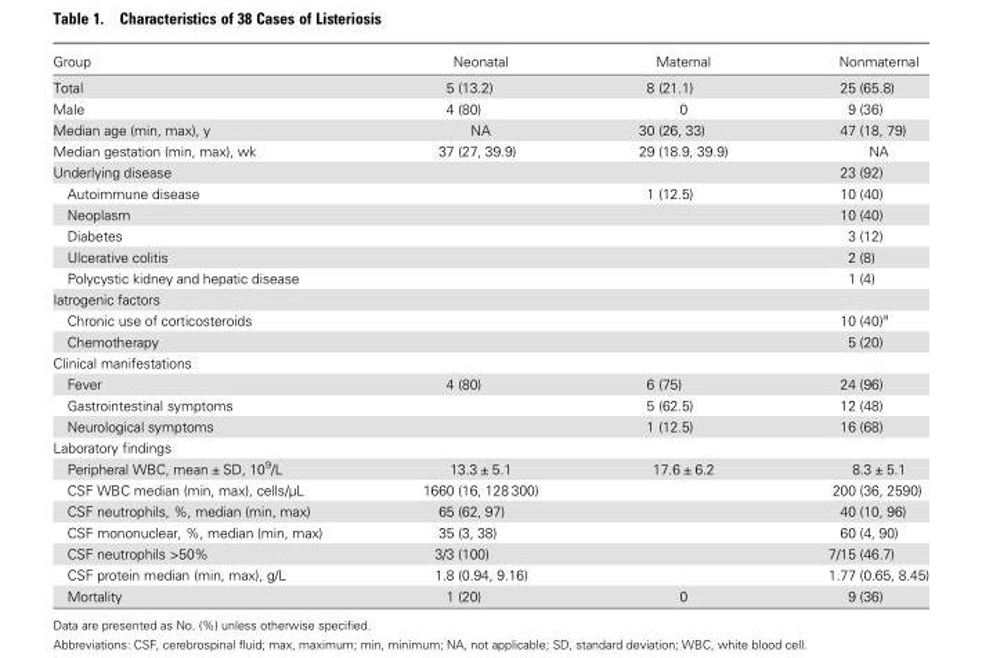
<table><thead><tr><td>Group</td><td>Neonatal</td><td>Maternal</td><td>Nonmaternal</td></tr></thead><tbody><tr><td>Total</td><td>5 (13.2)</td><td>8 (21.1)</td><td>25 (65.8)</td></tr><tr><td>Male</td><td>4 (80)</td><td>0</td><td>9 (36)</td></tr><tr><td>Median age (min, max), y</td><td>NA</td><td>30 (26, 33)</td><td>47 (18, 79)</td></tr><tr><td>Median gestation (min, max), wk</td><td>37 (27, 39.9)</td><td>29 (18.9, 39.9)</td><td>NA</td></tr><tr><td>Underlying disease</td><td></td><td></td><td>23 (92)</td></tr><tr><td>Autoimmune disease</td><td></td><td>1 (12.5)</td><td>10 (40)</td></tr><tr><td>Neoplasm</td><td></td><td></td><td>10 (40)</td></tr><tr><td>Diabetes</td><td></td><td></td><td>3 (12)</td></tr><tr><td>Ulcerative colitis</td><td></td><td></td><td>2 (8)</td></tr><tr><td>Polycystic kidney and hepatic disease</td><td></td><td></td><td>1 (4)</td></tr><tr><td colspan="4">Iatrogenic factors</td></tr><tr><td>Chronic use of corticosteroids</td><td></td><td></td><td>10 (40)<sup>a</sup></td></tr><tr><td>Chemotherapy</td><td></td><td></td><td>5 (20)</td></tr><tr><td colspan="4">Clinical manifestations</td></tr><tr><td>Fever</td><td>4 (80)</td><td>6 (75)</td><td>24 (96)</td></tr><tr><td>Gastrointestinal symptoms</td><td></td><td>5 (62.5)</td><td>12 (48)</td></tr><tr><td>Neurological symptoms</td><td></td><td>1 (12.5)</td><td>16 (68)</td></tr><tr><td colspan="4">Laboratory findings</td></tr><tr><td>Peripheral WBC, mean ± SD, 10<sup>9</sup>/L</td><td>13.3 ± 5.1</td><td>17.6 ± 6.2</td><td>8.3 ± 5.1</td></tr><tr><td>CSF WBC median (min, max), cells/µL</td><td>1660 (16, 128 300)</td><td></td><td>200 (36, 2590)</td></tr><tr><td>CSF neutrophils, %, median (min, max)</td><td>65 (62, 97)</td><td></td><td>40 (10, 96)</td></tr><tr><td>CSF mononuclear, %, median (min, max)</td><td>35 (3, 38)</td><td></td><td>60 (4, 90)</td></tr><tr><td>CSF neutrophils &gt;50%</td><td>3/3 (100)</td><td></td><td>7/15 (46.7)</td></tr><tr><td>CSF protein median (min, max), g/L</td><td>1.8 (0.94, 9.16)</td><td></td><td>1.77 (0.65, 8.45)</td></tr><tr><td>Mortality</td><td>1 (20)</td><td>0</td><td>9 (36)</td></tr></tbody></table>